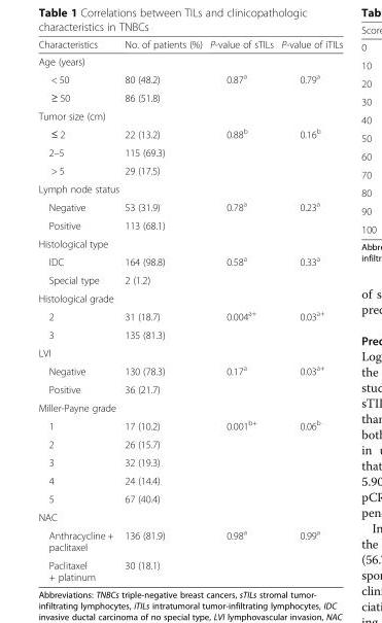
<table><thead><tr><td>Characteristics</td><td>No. of patients (%)</td><td>P-value of sTILs</td><td>P-value of iTILs</td></tr></thead><tbody><tr><td colspan="4">Age (years)</td></tr><tr><td>&lt; 50</td><td>80 (48.2)</td><td>0.87<sup>a</sup></td><td>0.79<sup>a</sup></td></tr><tr><td>≥ 50</td><td>86 (51.8)</td><td></td><td></td></tr><tr><td colspan="4">Tumor size (cm)</td></tr><tr><td>≤ 2</td><td>22 (13.2)</td><td>0.88<sup>b</sup></td><td>0.16<sup>b</sup></td></tr><tr><td>2–5</td><td>115 (69.3)</td><td></td><td></td></tr><tr><td>&gt; 5</td><td>29 (17.5)</td><td></td><td></td></tr><tr><td colspan="4">Lymph node status</td></tr><tr><td>Negative</td><td>53 (31.9)</td><td>0.78<sup>a</sup></td><td>0.23<sup>a</sup></td></tr><tr><td>Positive</td><td>113 (68.1)</td><td></td><td></td></tr><tr><td colspan="4">Histological type</td></tr><tr><td>IDC</td><td>164 (98.8)</td><td>0.58<sup>a</sup></td><td>0.33<sup>a</sup></td></tr><tr><td>Special type</td><td>2 (1.2)</td><td></td><td></td></tr><tr><td colspan="4">Histological grade</td></tr><tr><td>2</td><td>31 (18.7)</td><td>0.004<sup>a+</sup></td><td>0.03<sup>a+</sup></td></tr><tr><td>3</td><td>135 (81.3)</td><td></td><td></td></tr><tr><td colspan="4">LVI</td></tr><tr><td>Negative</td><td>130 (78.3)</td><td>0.17<sup>a</sup></td><td>0.03<sup>a+</sup></td></tr><tr><td>Positive</td><td>36 (21.7)</td><td></td><td></td></tr><tr><td colspan="4">Miller-Payne grade</td></tr><tr><td>1</td><td>17 (10.2)</td><td>0.001<sup>b+</sup></td><td>0.06<sup>b</sup></td></tr><tr><td>2</td><td>26 (15.7)</td><td></td><td></td></tr><tr><td>3</td><td>32 (19.3)</td><td></td><td></td></tr><tr><td>4</td><td>24 (14.4)</td><td></td><td></td></tr><tr><td>5</td><td>67 (40.4)</td><td></td><td></td></tr><tr><td colspan="4">NAC</td></tr><tr><td>Anthracycline + paclitaxel</td><td>136 (81.9)</td><td>0.98<sup>a</sup></td><td>0.99<sup>a</sup></td></tr><tr><td>Paclitaxel + platinum</td><td>30 (18.1)</td><td></td><td></td></tr></tbody></table>